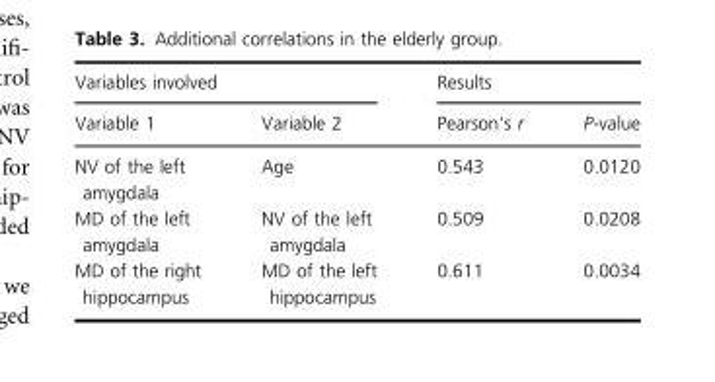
<table><thead><tr><td colspan="2">Variables involved</td><td colspan="2">Results</td></tr><tr><td>Variable 1</td><td>Variable 2</td><td>Pearson’s r</td><td>P-value</td></tr></thead><tbody><tr><td>NV of the left amygdala</td><td>Age</td><td>0.543</td><td>0.0120</td></tr><tr><td>MD of the left amygdala</td><td>NV of the left amygdala</td><td>0.509</td><td>0.0208</td></tr><tr><td>MD of the right hippocampus</td><td>MD of the left hippocampus</td><td>0.611</td><td>0.0034</td></tr></tbody></table>